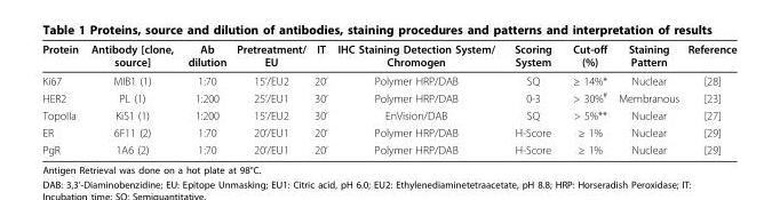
<table><thead><tr><td>Protein</td><td>Antibody [clone, source]</td><td>Ab dilution</td><td>Pretreatment/ EU</td><td>IT</td><td>IHC Staining Detection System/ Chromogen</td><td>Scoring System</td><td>Cut-off (%)</td><td>Staining Pattern</td><td>Reference</td></tr></thead><tbody><tr><td>Ki67</td><td>MIB1 (1)</td><td>1:70</td><td>15’/EU2</td><td>20’</td><td>Polymer HRP/DAB</td><td>SQ</td><td>≥ 14%*</td><td>Nuclear</td><td>[28]</td></tr><tr><td>HER2</td><td>PL (1)</td><td>1:200</td><td>25’/EU1</td><td>30’</td><td>Polymer HRP/DAB</td><td>0-3</td><td>&gt; 30%<sup>#</sup></td><td>Membranous</td><td>[23]</td></tr><tr><td>TopoIIa</td><td>KiS1 (1)</td><td>1:200</td><td>15’/EU2</td><td>30’</td><td>EnVision/DAB</td><td>SQ</td><td>&gt; 5%**</td><td>Nuclear</td><td>[27]</td></tr><tr><td>ER</td><td>6F11 (2)</td><td>1:70</td><td>20’/EU1</td><td>20’</td><td>Polymer HRP/DAB</td><td>H-Score</td><td>≥ 1%</td><td>Nuclear</td><td>[29]</td></tr><tr><td>PgR</td><td>1A6 (2)</td><td>1:70</td><td>20’/EU1</td><td>20’</td><td>Polymer HRP/DAB</td><td>H-Score</td><td>≥ 1%</td><td>Nuclear</td><td>[29]</td></tr></tbody></table>